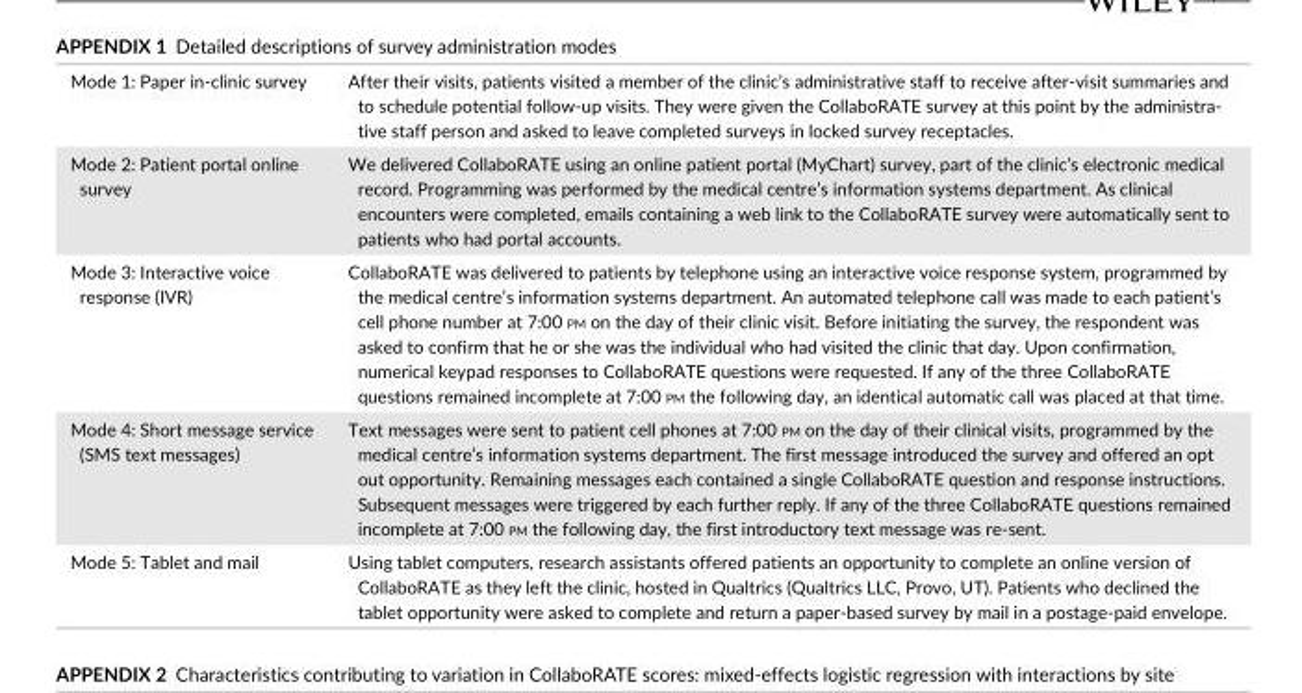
<table><tbody><tr><td>Mode 1: Paper in- clinic survey</td><td>After their visits, patients visited a member of the clinic’s administrative staff to receive after- visit summaries and to schedule potential follow- up visits. They were given the CollaboRATE survey at this point by the administra- tive staff person and asked to leave completed surveys in locked survey receptacles.</td></tr><tr><td>Mode 2: Patient portal online survey</td><td>We delivered CollaboRATE using an online patient portal (MyChart) survey, part of the clinic’s electronic medical record. Programming was performed by the medical centre’s information systems department. As clinical encounters were completed, emails containing a web link to the CollaboRATE survey were automatically sent to patients who had portal accounts.</td></tr><tr><td>Mode 3: Interactive voice response (IVR)</td><td>CollaboRATE was delivered to patients by telephone using an interactive voice response system, programmed by the medical centre’s information systems department. An automated telephone call was made to each patient’s cell phone number at 7:00 pm on the day of their clinic visit. Before initiating the survey, the respondent was asked to confirm that he or she was the individual who had visited the clinic that day. Upon confirmation, numerical keypad responses to CollaboRATE questions were requested. If any of the three CollaboRATE questions remained incomplete at 7:00 pm the following day, an identical automatic call was placed at that time.</td></tr><tr><td>Mode 4: Short message service (SMS text messages)</td><td>Text messages were sent to patient cell phones at 7:00 pm on the day of their clinical visits, programmed by the medical centre’s information systems department. The first message introduced the survey and offered an opt out opportunity. Remaining messages each contained a single CollaboRATE question and response instructions. Subsequent messages were triggered by each further reply. If any of the three CollaboRATE questions remained incomplete at 7:00 pm the following day, the first introductory text message was re- sent.</td></tr><tr><td>Mode 5: Tablet and mail</td><td>Using tablet computers, research assistants offered patients an opportunity to complete an online version of CollaboRATE as they left the clinic, hosted in Qualtrics (Qualtrics LLC, Provo, UT). Patients who declined the tablet opportunity were asked to complete and return a paper- based survey by mail in a postage- paid envelope.</td></tr></tbody></table>